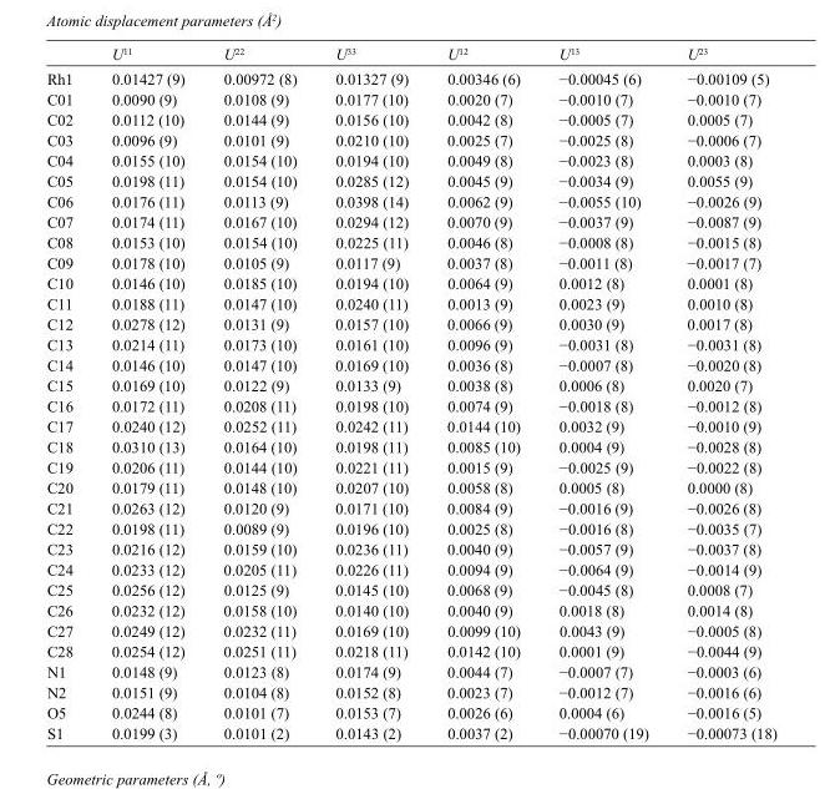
<table><thead><tr><td></td><td>U<sup>11</sup></td><td>U<sup>22</sup></td><td>U<sup>33</sup></td><td>U<sup>12</sup></td><td>U<sup>13</sup></td><td>U<sup>23</sup></td></tr></thead><tbody><tr><td>Rh1</td><td>0.01427 (9)</td><td>0.00972 (8)</td><td>0.01327 (9)</td><td>0.00346 (6)</td><td>−0.00045 (6)</td><td>−0.00109 (5)</td></tr><tr><td>C01</td><td>0.0090 (9)</td><td>0.0108 (9)</td><td>0.0177 (10)</td><td>0.0020 (7)</td><td>−0.0010 (7)</td><td>−0.0010 (7)</td></tr><tr><td>C02</td><td>0.0112 (10)</td><td>0.0144 (9)</td><td>0.0156 (10)</td><td>0.0042 (8)</td><td>−0.0005 (7)</td><td>0.0005 (7)</td></tr><tr><td>C03</td><td>0.0096 (9)</td><td>0.0101 (9)</td><td>0.0210 (10)</td><td>0.0025 (7)</td><td>−0.0025 (8)</td><td>−0.0006 (7)</td></tr><tr><td>C04</td><td>0.0155 (10)</td><td>0.0154 (10)</td><td>0.0194 (10)</td><td>0.0049 (8)</td><td>−0.0023 (8)</td><td>0.0003 (8)</td></tr><tr><td>C05</td><td>0.0198 (11)</td><td>0.0154 (10)</td><td>0.0285 (12)</td><td>0.0045 (9)</td><td>−0.0034 (9)</td><td>0.0055 (9)</td></tr><tr><td>C06</td><td>0.0176 (11)</td><td>0.0113 (9)</td><td>0.0398 (14)</td><td>0.0062 (9)</td><td>−0.0055 (10)</td><td>−0.0026 (9)</td></tr><tr><td>C07</td><td>0.0174 (11)</td><td>0.0167 (10)</td><td>0.0294 (12)</td><td>0.0070 (9)</td><td>−0.0037 (9)</td><td>−0.0087 (9)</td></tr><tr><td>C08</td><td>0.0153 (10)</td><td>0.0154 (10)</td><td>0.0225 (11)</td><td>0.0046 (8)</td><td>−0.0008 (8)</td><td>−0.0015 (8)</td></tr><tr><td>C09</td><td>0.0178 (10)</td><td>0.0105 (9)</td><td>0.0117 (9)</td><td>0.0037 (8)</td><td>−0.0011 (8)</td><td>−0.0017 (7)</td></tr><tr><td>C10</td><td>0.0146 (10)</td><td>0.0185 (10)</td><td>0.0194 (10)</td><td>0.0064 (9)</td><td>0.0012 (8)</td><td>0.0001 (8)</td></tr><tr><td>C11</td><td>0.0188 (11)</td><td>0.0147 (10)</td><td>0.0240 (11)</td><td>0.0013 (9)</td><td>0.0023 (9)</td><td>0.0010 (8)</td></tr><tr><td>C12</td><td>0.0278 (12)</td><td>0.0131 (9)</td><td>0.0157 (10)</td><td>0.0066 (9)</td><td>0.0030 (9)</td><td>0.0017 (8)</td></tr><tr><td>C13</td><td>0.0214 (11)</td><td>0.0173 (10)</td><td>0.0161 (10)</td><td>0.0096 (9)</td><td>−0.0031 (8)</td><td>−0.0031 (8)</td></tr><tr><td>C14</td><td>0.0146 (10)</td><td>0.0147 (10)</td><td>0.0169 (10)</td><td>0.0036 (8)</td><td>−0.0007 (8)</td><td>−0.0020 (8)</td></tr><tr><td>C15</td><td>0.0169 (10)</td><td>0.0122 (9)</td><td>0.0133 (9)</td><td>0.0038 (8)</td><td>0.0006 (8)</td><td>0.0020 (7)</td></tr><tr><td>C16</td><td>0.0172 (11)</td><td>0.0208 (11)</td><td>0.0198 (10)</td><td>0.0074 (9)</td><td>−0.0018 (8)</td><td>−0.0012 (8)</td></tr><tr><td>C17</td><td>0.0240 (12)</td><td>0.0252 (11)</td><td>0.0242 (11)</td><td>0.0144 (10)</td><td>0.0032 (9)</td><td>−0.0010 (9)</td></tr><tr><td>C18</td><td>0.0310 (13)</td><td>0.0164 (10)</td><td>0.0198 (11)</td><td>0.0085 (10)</td><td>0.0004 (9)</td><td>−0.0028 (8)</td></tr><tr><td>C19</td><td>0.0206 (11)</td><td>0.0144 (10)</td><td>0.0221 (11)</td><td>0.0015 (9)</td><td>−0.0025 (9)</td><td>−0.0022 (8)</td></tr><tr><td>C20</td><td>0.0179 (11)</td><td>0.0148 (10)</td><td>0.0207 (10)</td><td>0.0058 (8)</td><td>0.0005 (8)</td><td>0.0000 (8)</td></tr><tr><td>C21</td><td>0.0263 (12)</td><td>0.0120 (9)</td><td>0.0171 (10)</td><td>0.0084 (9)</td><td>−0.0016 (9)</td><td>−0.0026 (8)</td></tr><tr><td>C22</td><td>0.0198 (11)</td><td>0.0089 (9)</td><td>0.0196 (10)</td><td>0.0025 (8)</td><td>−0.0016 (8)</td><td>−0.0035 (7)</td></tr><tr><td>C23</td><td>0.0216 (12)</td><td>0.0159 (10)</td><td>0.0236 (11)</td><td>0.0040 (9)</td><td>−0.0057 (9)</td><td>−0.0037 (8)</td></tr><tr><td>C24</td><td>0.0233 (12)</td><td>0.0205 (11)</td><td>0.0226 (11)</td><td>0.0094 (9)</td><td>−0.0064 (9)</td><td>−0.0014 (9)</td></tr><tr><td>C25</td><td>0.0256 (12)</td><td>0.0125 (9)</td><td>0.0145 (10)</td><td>0.0068 (9)</td><td>−0.0045 (8)</td><td>0.0008 (7)</td></tr><tr><td>C26</td><td>0.0232 (12)</td><td>0.0158 (10)</td><td>0.0140 (10)</td><td>0.0040 (9)</td><td>0.0018 (8)</td><td>0.0014 (8)</td></tr><tr><td>C27</td><td>0.0249 (12)</td><td>0.0232 (11)</td><td>0.0169 (10)</td><td>0.0099 (10)</td><td>0.0043 (9)</td><td>−0.0005 (8)</td></tr><tr><td>C28</td><td>0.0254 (12)</td><td>0.0251 (11)</td><td>0.0218 (11)</td><td>0.0142 (10)</td><td>0.0001 (9)</td><td>−0.0044 (9)</td></tr><tr><td>N1</td><td>0.0148 (9)</td><td>0.0123 (8)</td><td>0.0174 (9)</td><td>0.0044 (7)</td><td>−0.0007 (7)</td><td>−0.0003 (6)</td></tr><tr><td>N2</td><td>0.0151 (9)</td><td>0.0104 (8)</td><td>0.0152 (8)</td><td>0.0023 (7)</td><td>−0.0012 (7)</td><td>−0.0016 (6)</td></tr><tr><td>O5</td><td>0.0244 (8)</td><td>0.0101 (7)</td><td>0.0153 (7)</td><td>0.0026 (6)</td><td>0.0004 (6)</td><td>−0.0016 (5)</td></tr><tr><td>S1</td><td>0.0199 (3)</td><td>0.0101 (2)</td><td>0.0143 (2)</td><td>0.0037 (2)</td><td>−0.00070 (19)</td><td>−0.00073 (18)</td></tr></tbody></table>